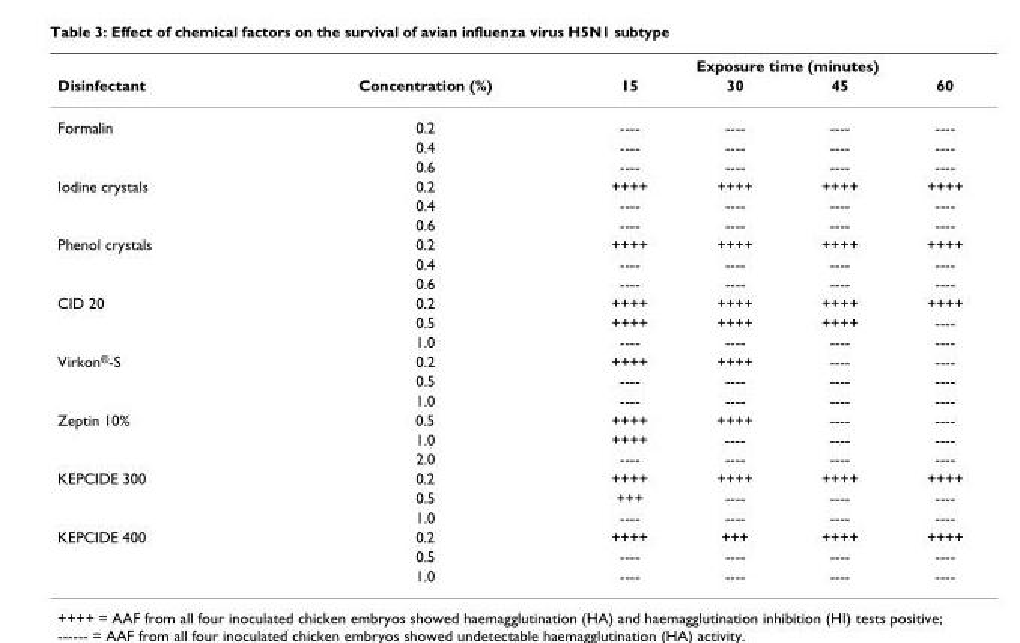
<table><thead><tr><td rowspan="2">Disinfectant</td><td rowspan="2">Concentration (%)</td><td colspan="4">Exposure time (minutes)</td></tr><tr><td>15</td><td>30</td><td>45</td><td>60</td></tr></thead><tbody><tr><td rowspan="3">Formalin</td><td>0.2</td><td>----</td><td>----</td><td>----</td><td>----</td></tr><tr><td>0.4</td><td>----</td><td>----</td><td>----</td><td>----</td></tr><tr><td>0.6</td><td>----</td><td>----</td><td>----</td><td>----</td></tr><tr><td rowspan="3">Iodine crystals</td><td>0.2</td><td>++++</td><td>++++</td><td>++++</td><td>++++</td></tr><tr><td>0.4</td><td>----</td><td>----</td><td>----</td><td>----</td></tr><tr><td>0.6</td><td>----</td><td>----</td><td>----</td><td>----</td></tr><tr><td rowspan="3">Phenol crystals</td><td>0.2</td><td>++++</td><td>++++</td><td>++++</td><td>++++</td></tr><tr><td>0.4</td><td>----</td><td>----</td><td>----</td><td>----</td></tr><tr><td>0.6</td><td>----</td><td>----</td><td>----</td><td>----</td></tr><tr><td rowspan="3">CID 20</td><td>0.2</td><td>++++</td><td>++++</td><td>++++</td><td>++++</td></tr><tr><td>0.5</td><td>++++</td><td>++++</td><td>++++</td><td>----</td></tr><tr><td>1.0</td><td>----</td><td>----</td><td>----</td><td>----</td></tr><tr><td rowspan="3">Virkon<sup>®</sup>-S</td><td>0.2</td><td>++++</td><td>++++</td><td>----</td><td>----</td></tr><tr><td>0.5</td><td>----</td><td>----</td><td>----</td><td>----</td></tr><tr><td>1.0</td><td>----</td><td>----</td><td>----</td><td>----</td></tr><tr><td rowspan="3">Zeptin 10%</td><td>0.5</td><td>++++</td><td>++++</td><td>----</td><td>----</td></tr><tr><td>1.0</td><td>++++</td><td>----</td><td>----</td><td>----</td></tr><tr><td>2.0</td><td>----</td><td>----</td><td>----</td><td>----</td></tr><tr><td rowspan="3">KEPCIDE 300</td><td>0.2</td><td>++++</td><td>++++</td><td>++++</td><td>++++</td></tr><tr><td>0.5</td><td>+++</td><td>----</td><td>----</td><td>----</td></tr><tr><td>1.0</td><td>----</td><td>----</td><td>----</td><td>----</td></tr><tr><td rowspan="3">KEPCIDE 400</td><td>0.2</td><td>++++</td><td>+++</td><td>++++</td><td>++++</td></tr><tr><td>0.5</td><td>----</td><td>----</td><td>----</td><td>----</td></tr><tr><td>1.0</td><td>----</td><td>----</td><td>----</td><td>----</td></tr></tbody></table>